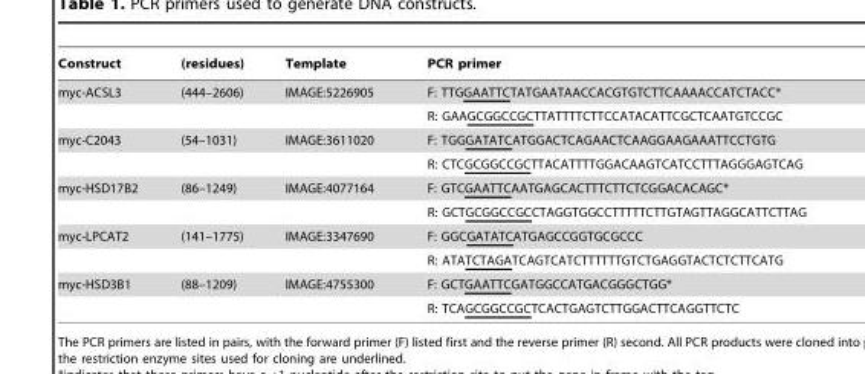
<table><thead><tr><td>Construct</td><td>(residues)</td><td>Template</td><td>PCR primer</td></tr></thead><tbody><tr><td rowspan="2">myc-ACSL3</td><td>(444–2606)</td><td>IMAGE:5226905</td><td>F: TTGGAATTCTATGAATAACCACGTGTCTTCAAAACCATCTACC*</td></tr><tr><td></td><td></td><td>R: GAAGCGGCCGCTTATTTTCTTCCATACATTCGCTCAATGTCCGC</td></tr><tr><td rowspan="2">myc-C2043</td><td>(54–1031)</td><td>IMAGE:3611020</td><td>F: TGGGATATCATGGACTCAGAACTCAAGGAAGAAATTCCTGTG</td></tr><tr><td></td><td></td><td>R: CTCGCGGCCGCTTACATTTTGGACAAGTCATCCTTTAGGGAGTCAG</td></tr><tr><td rowspan="2">myc-HSD17B2</td><td>(86–1249)</td><td>IMAGE:4077164</td><td>F: GTCGAATTCAATGAGCACTTTCTTCTCGGACACAGC*</td></tr><tr><td></td><td></td><td>R: GCTGCGGCCGCCTAGGTGGCCTTTTTCTTGTAGTTAGGCATTCTTAG</td></tr><tr><td rowspan="2">myc-LPCAT2</td><td>(141–1775)</td><td>IMAGE:3347690</td><td>F: GGCGATATCATGAGCCGGTGCGCCC</td></tr><tr><td></td><td></td><td>R: ATATCTAGATCAGTCATCTTTTTTGTCTGAGGTACTCTCTTCATG</td></tr><tr><td rowspan="2">myc-HSD3B1</td><td>(88–1209)</td><td>IMAGE:4755300</td><td>F: GCTGAATTCGATGGCCATGACGGGCTGG*</td></tr><tr><td></td><td></td><td>R: TCAGCGGCCGCTCACTGAGTCTTGGACTTCAGGTTCTC</td></tr></tbody></table>